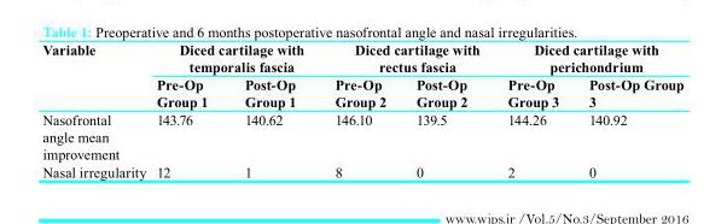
<table><thead><tr><td rowspan="2">Variable</td><td colspan="2">Diced cartilage with temporalis fascia</td><td colspan="2">Diced cartilage with rectus fascia</td><td colspan="2">Diced cartilage with perichondrium</td></tr><tr><td>Pre-Op Group 1</td><td>Post-Op Group 1</td><td>Pre-Op Group 2</td><td>Post-Op Group 2</td><td>Pre-Op Group 3</td><td>Post-Op Group 3</td></tr></thead><tbody><tr><td>Nasofrontal angle mean improvement</td><td>143.76</td><td>140.62</td><td>146.10</td><td>139.5</td><td>144.26</td><td>140.92</td></tr><tr><td>Nasal irregularity</td><td>12</td><td>1</td><td>8</td><td>0</td><td>2</td><td>0</td></tr></tbody></table>